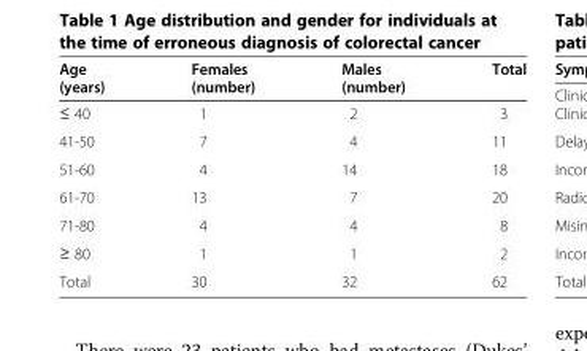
<table><thead><tr><td>Age (years)</td><td>Females (number)</td><td>Males (number)</td><td>Total</td></tr></thead><tbody><tr><td>≤ 40</td><td>1</td><td>2</td><td>3</td></tr><tr><td>41-50</td><td>7</td><td>4</td><td>11</td></tr><tr><td>51-60</td><td>4</td><td>14</td><td>18</td></tr><tr><td>61-70</td><td>13</td><td>7</td><td>20</td></tr><tr><td>71-80</td><td>4</td><td>4</td><td>8</td></tr><tr><td>≥ 80</td><td>1</td><td>1</td><td>2</td></tr><tr><td>Total</td><td>30</td><td>32</td><td>62</td></tr></tbody></table>